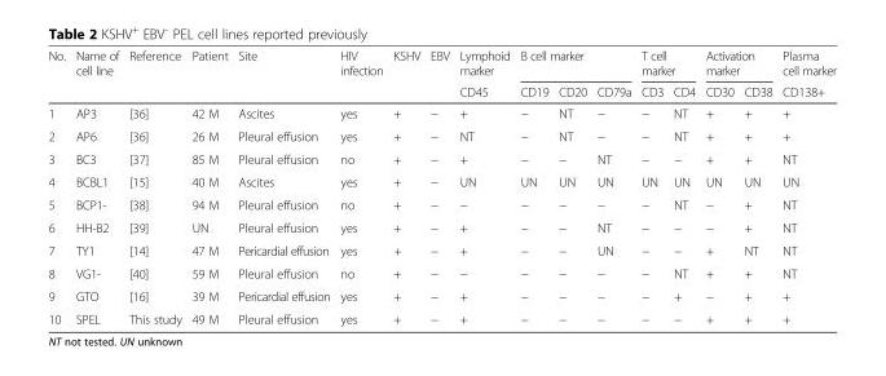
<table><thead><tr><td rowspan="2">No.</td><td rowspan="2">Name of cell line</td><td rowspan="2">Reference</td><td rowspan="2">Patient</td><td rowspan="2">Site</td><td rowspan="2">HIV infection</td><td rowspan="2">KSHV</td><td rowspan="2">EBV</td><td rowspan="2">Lymphoid marker CD45</td><td colspan="3">B cell marker</td><td colspan="2">T cell marker</td><td colspan="2">Activation marker</td><td rowspan="2">Plasma cell marker CD138+</td></tr><tr><td>CD19</td><td>CD20</td><td>CD79a</td><td>CD3</td><td>CD4</td><td>CD30</td><td>CD38</td></tr></thead><tbody><tr><td>1</td><td>AP3</td><td>[36]</td><td>42 M</td><td>Ascites</td><td>yes</td><td>+</td><td>−</td><td>+</td><td>−</td><td>NT</td><td>−</td><td>−</td><td>NT</td><td>+</td><td>+</td><td>+</td></tr><tr><td>2</td><td>AP6</td><td>[36]</td><td>26 M</td><td>Pleural effusion</td><td>yes</td><td>+</td><td>−</td><td>NT</td><td>−</td><td>NT</td><td>−</td><td>−</td><td>NT</td><td>+</td><td>+</td><td>+</td></tr><tr><td>3</td><td>BC3</td><td>[37]</td><td>85 M</td><td>Pleural effusion</td><td>no</td><td>+</td><td>−</td><td>+</td><td>−</td><td>−</td><td>NT</td><td>−</td><td>−</td><td>+</td><td>+</td><td>NT</td></tr><tr><td>4</td><td>BCBL1</td><td>[15]</td><td>40 M</td><td>Ascites</td><td>yes</td><td>+</td><td>−</td><td>UN</td><td>UN</td><td>UN</td><td>UN</td><td>UN</td><td>UN</td><td>UN</td><td>UN</td><td>UN</td></tr><tr><td>5</td><td>BCP1-</td><td>[38]</td><td>94 M</td><td>Pleural effusion</td><td>no</td><td>+</td><td>−</td><td>−</td><td>−</td><td>−</td><td>−</td><td>−</td><td>NT</td><td>−</td><td>+</td><td>NT</td></tr><tr><td>6</td><td>HH-B2</td><td>[39]</td><td>UN</td><td>Pleural effusion</td><td>yes</td><td>+</td><td>−</td><td>+</td><td>−</td><td>−</td><td>NT</td><td>−</td><td>−</td><td>−</td><td>+</td><td>NT</td></tr><tr><td>7</td><td>TY1</td><td>[14]</td><td>47 M</td><td>Pericardial effusion</td><td>yes</td><td>+</td><td>−</td><td>+</td><td>−</td><td>−</td><td>UN</td><td>−</td><td>−</td><td>+</td><td>NT</td><td>NT</td></tr><tr><td>8</td><td>VG1-</td><td>[40]</td><td>59 M</td><td>Pleural effusion</td><td>no</td><td>+</td><td>−</td><td>−</td><td>−</td><td>−</td><td>−</td><td>−</td><td>NT</td><td>+</td><td>+</td><td>NT</td></tr><tr><td>9</td><td>GTO</td><td>[16]</td><td>39 M</td><td>Pericardial effusion</td><td>yes</td><td>+</td><td>−</td><td>+</td><td>−</td><td>−</td><td>−</td><td>−</td><td>+</td><td>−</td><td>+</td><td>+</td></tr><tr><td>10</td><td>SPEL</td><td>This study</td><td>49 M</td><td>Pleural effusion</td><td>yes</td><td>+</td><td>−</td><td>+</td><td>−</td><td>−</td><td>−</td><td>−</td><td>−</td><td>+</td><td>+</td><td>+</td></tr></tbody></table>